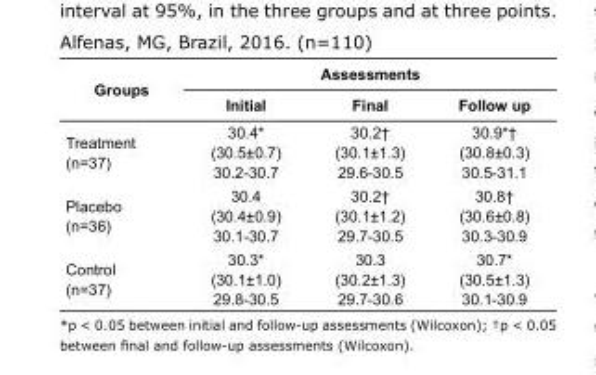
<table><tbody><tr><td rowspan="2">Groups</td><td colspan="3">Assessments</td></tr><tr><td>Initial</td><td>Final</td><td>Follow up</td></tr><tr><td>Treatment (n=37)</td><td>30.4* (30.5±0.7) 30.2-30.7</td><td>30.2† (30.1±1.3) 29.6-30.5</td><td>30.9*† (30.8±0.3) 30.5-31.1</td></tr><tr><td>Placebo (n=36)</td><td>30.4 (30.4±0.9) 30.1-30.7</td><td>30.2† (30.1±1.2) 29.7-30.5</td><td>30.8† (30.6±0.8) 30.3-30.9</td></tr><tr><td>Control (n=37)</td><td>30.3* (30.1±1.0) 29.8-30.5</td><td>30.3 (30.2±1.3) 29.7-30.6</td><td>30.7* (30.5±1.3) 30.1-30.9</td></tr></tbody></table>